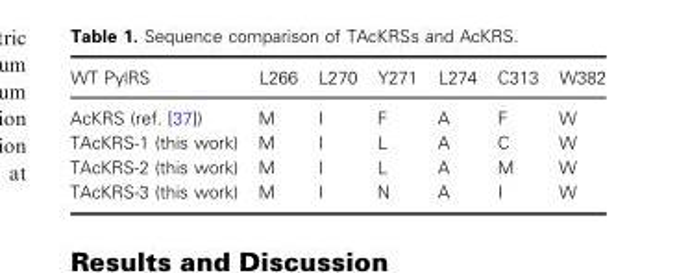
<table><thead><tr><td>WT PylRS</td><td>L266</td><td>L270</td><td>Y271</td><td>L274</td><td>C313</td><td>W382</td></tr></thead><tbody><tr><td>AcKRS (ref. [37])</td><td>M</td><td>I</td><td>F</td><td>A</td><td>F</td><td>W</td></tr><tr><td>TAcKRS-1 (this work)</td><td>M</td><td>I</td><td>L</td><td>A</td><td>C</td><td>W</td></tr><tr><td>TAcKRS-2 (this work)</td><td>M</td><td>I</td><td>L</td><td>A</td><td>M</td><td>W</td></tr><tr><td>TAcKRS-3 (this work)</td><td>M</td><td>I</td><td>N</td><td>A</td><td>I</td><td>W</td></tr></tbody></table>